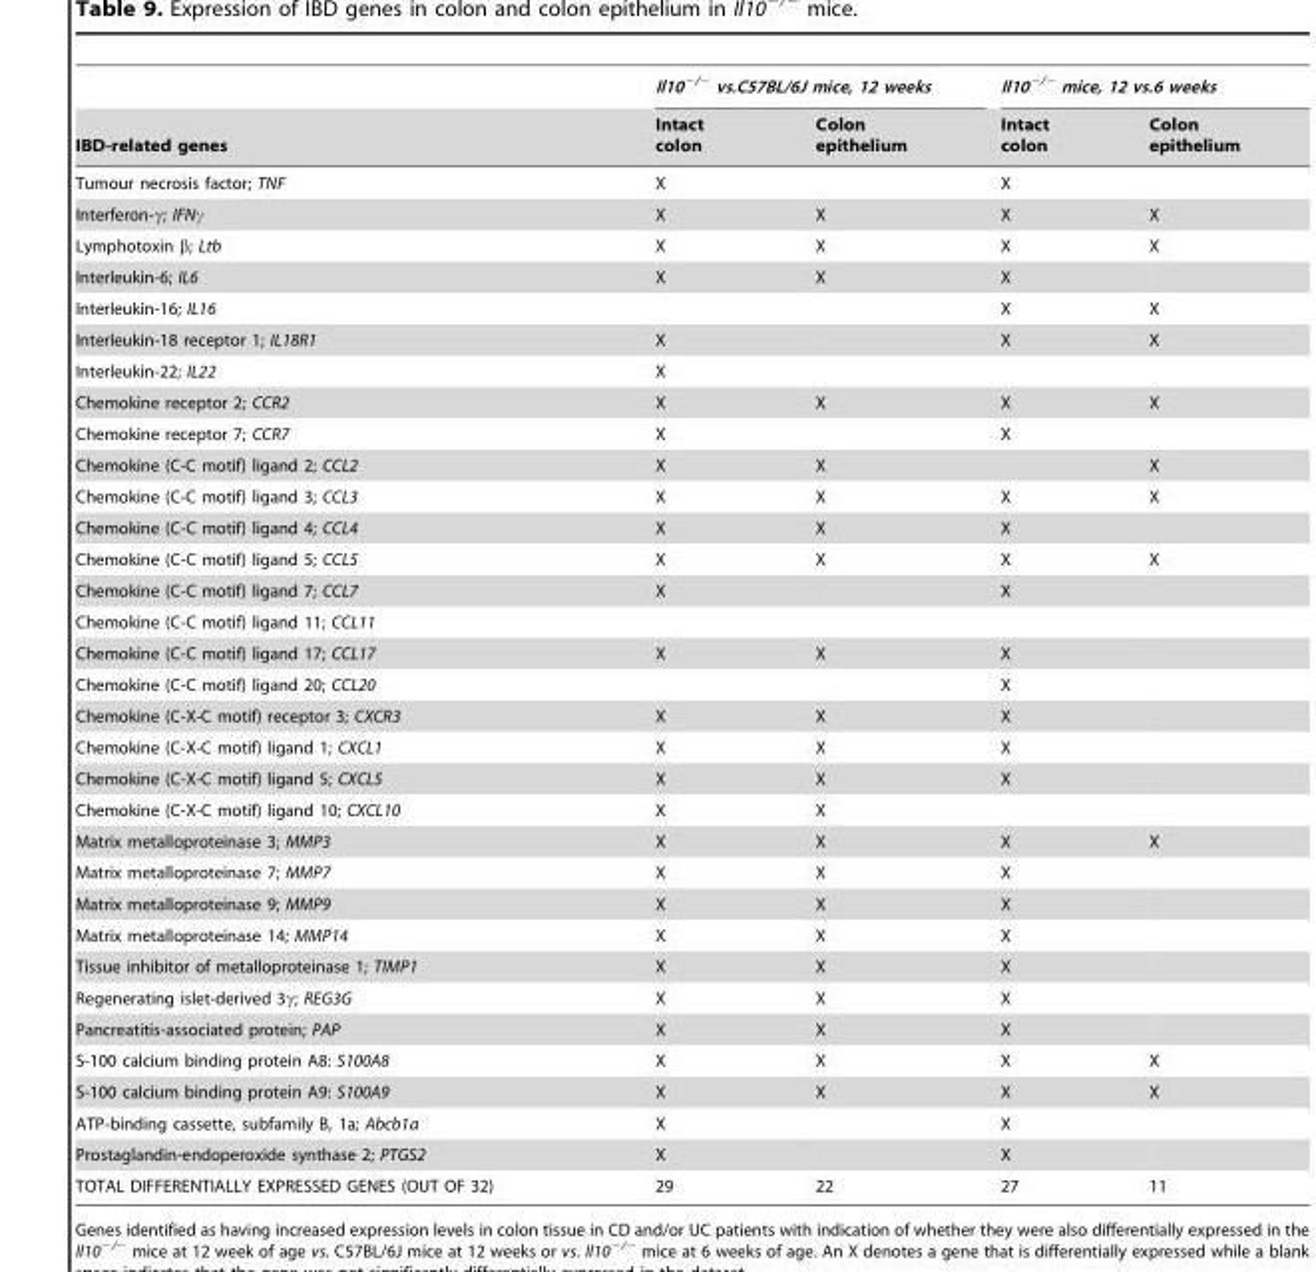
<table><thead><tr><td rowspan="2">IBD-related genes</td><td colspan="2">Il10<sup>−/−</sup> vs.C57BL/6J mice, 12 weeks</td><td colspan="2">Il10<sup>−/−</sup> mice, 12 vs.6 weeks</td></tr><tr><td>Intact colon</td><td>Colon epithelium</td><td>Intact colon</td><td>Colon epithelium</td></tr></thead><tbody><tr><td>Tumour necrosis factor; TNF</td><td>X</td><td></td><td>X</td><td></td></tr><tr><td>Interferon-γ; IFNγ</td><td>X</td><td>X</td><td>X</td><td>X</td></tr><tr><td>Lymphotoxin β; Ltb</td><td>X</td><td>X</td><td>X</td><td>X</td></tr><tr><td>Interleukin-6; IL6</td><td>X</td><td>X</td><td>X</td><td></td></tr><tr><td>Interleukin-16; IL16</td><td></td><td></td><td>X</td><td>X</td></tr><tr><td>Interleukin-18 receptor 1; IL18R1</td><td>X</td><td></td><td>X</td><td>X</td></tr><tr><td>Interleukin-22; IL22</td><td>X</td><td></td><td></td><td></td></tr><tr><td>Chemokine receptor 2; CCR2</td><td>X</td><td>X</td><td>X</td><td>X</td></tr><tr><td>Chemokine receptor 7; CCR7</td><td>X</td><td></td><td>X</td><td></td></tr><tr><td>Chemokine (C-C motif) ligand 2; CCL2</td><td>X</td><td>X</td><td></td><td>X</td></tr><tr><td>Chemokine (C-C motif) ligand 3; CCL3</td><td>X</td><td>X</td><td>X</td><td>X</td></tr><tr><td>Chemokine (C-C motif) ligand 4; CCL4</td><td>X</td><td>X</td><td>X</td><td></td></tr><tr><td>Chemokine (C-C motif) ligand 5; CCL5</td><td>X</td><td>X</td><td>X</td><td>X</td></tr><tr><td>Chemokine (C-C motif) ligand 7; CCL7</td><td>X</td><td></td><td>X</td><td></td></tr><tr><td colspan="5">Chemokine (C-C motif) ligand 11; CCL11</td></tr><tr><td>Chemokine (C-C motif) ligand 17; CCL17</td><td>X</td><td>X</td><td>X</td><td></td></tr><tr><td>Chemokine (C-C motif) ligand 20; CCL20</td><td></td><td></td><td>X</td><td></td></tr><tr><td>Chemokine (C-X-C motif) receptor 3; CXCR3</td><td>X</td><td>X</td><td>X</td><td></td></tr><tr><td>Chemokine (C-X-C motif) ligand 1; CXCL1</td><td>X</td><td>X</td><td>X</td><td></td></tr><tr><td>Chemokine (C-X-C motif) ligand 5; CXCL5</td><td>X</td><td>X</td><td>X</td><td></td></tr><tr><td>Chemokine (C-X-C motif) ligand 10; CXCL10</td><td>X</td><td>X</td><td></td><td></td></tr><tr><td>Matrix metalloproteinase 3; MMP3</td><td>X</td><td>X</td><td>X</td><td>X</td></tr><tr><td>Matrix metalloproteinase 7; MMP7</td><td>X</td><td>X</td><td>X</td><td></td></tr><tr><td>Matrix metalloproteinase 9; MMP9</td><td>X</td><td>X</td><td>X</td><td></td></tr><tr><td>Matrix metalloproteinase 14; MMP14</td><td>X</td><td>X</td><td>X</td><td></td></tr><tr><td>Tissue inhibitor of metalloproteinase 1; TIMP1</td><td>X</td><td>X</td><td>X</td><td></td></tr><tr><td>Regenerating islet-derived 3γ; REG3G</td><td>X</td><td>X</td><td>X</td><td></td></tr><tr><td>Pancreatitis-associated protein; PAP</td><td>X</td><td>X</td><td>X</td><td></td></tr><tr><td>S-100 calcium binding protein A8: S100A8</td><td>X</td><td>X</td><td>X</td><td>X</td></tr><tr><td>S-100 calcium binding protein A9: S100A9</td><td>X</td><td>X</td><td>X</td><td>X</td></tr><tr><td>ATP-binding cassette, subfamily B, 1a; Abcb1a</td><td>X</td><td></td><td>X</td><td></td></tr><tr><td>Prostaglandin-endoperoxide synthase 2; PTGS2</td><td>X</td><td></td><td>X</td><td></td></tr><tr><td>TOTAL DIFFERENTIALLY EXPRESSED GENES (OUT OF 32)</td><td>29</td><td>22</td><td>27</td><td>11</td></tr></tbody></table>